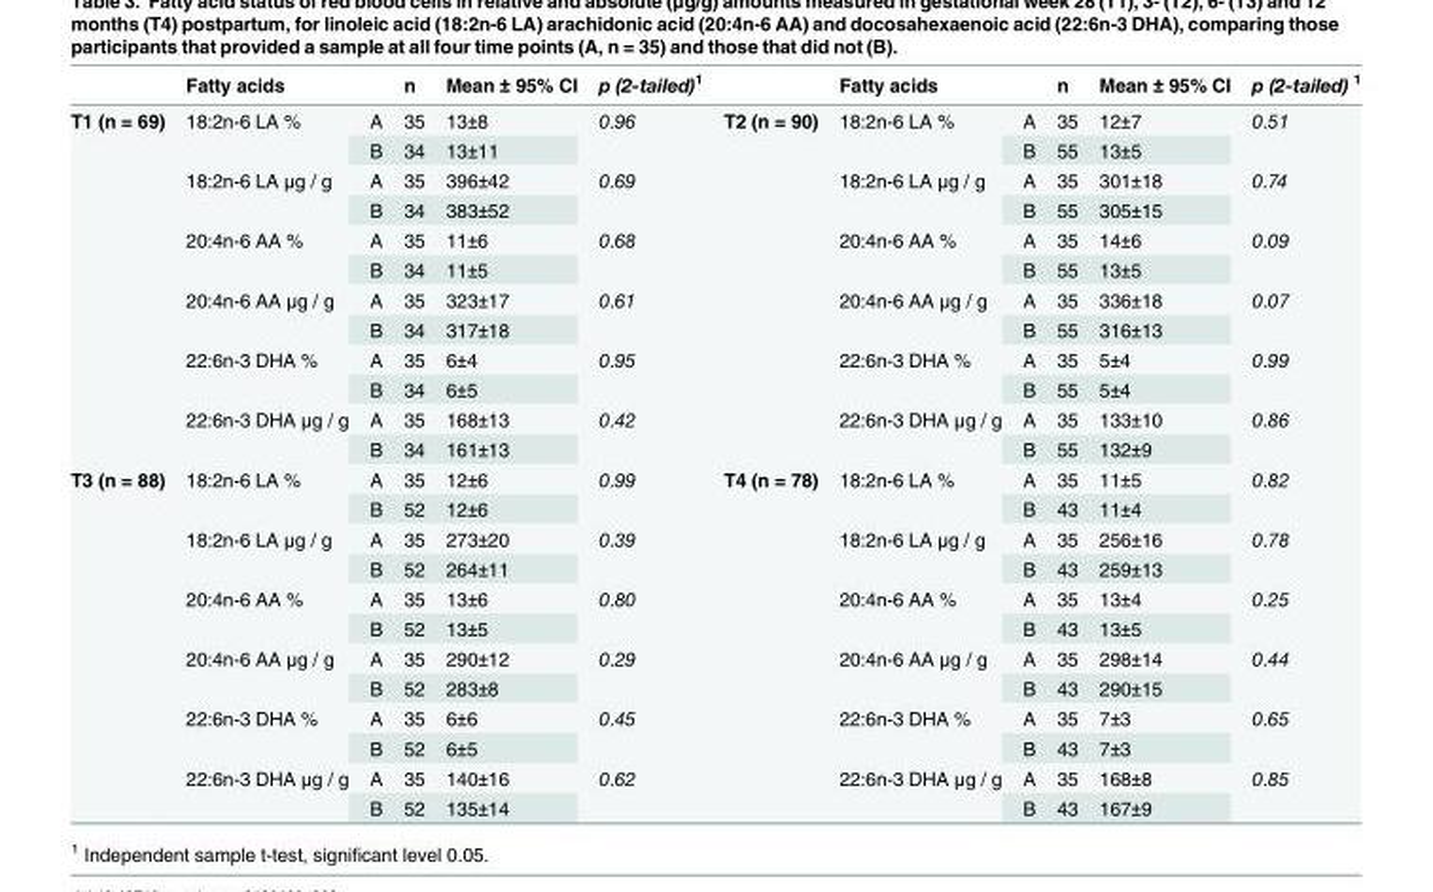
<table><thead><tr><td></td><td>Fatty acids</td><td></td><td>n</td><td>Mean ± 95% CI</td><td>p (2-tailed)<sup>1</sup></td><td></td><td>Fatty acids</td><td></td><td>n</td><td>Mean ± 95% CI</td><td>p (2-tailed) <sup>1</sup></td></tr></thead><tbody><tr><td rowspan="12">T1 (n = 69)</td><td rowspan="2">18:2n-6 LA %</td><td>A</td><td>35</td><td>13±8</td><td rowspan="2">0.96</td><td rowspan="12">T2 (n = 90)</td><td rowspan="2">18:2n-6 LA %</td><td>A</td><td>35</td><td>12±7</td><td rowspan="2">0.51</td></tr><tr><td>B</td><td>34</td><td>13±11</td><td>B</td><td>55</td><td>13±5</td></tr><tr><td rowspan="2">18:2n-6 LA μg / g</td><td>A</td><td>35</td><td>396±42</td><td rowspan="2">0.69</td><td rowspan="2">18:2n-6 LA μg / g</td><td>A</td><td>35</td><td>301±18</td><td rowspan="2">0.74</td></tr><tr><td>B</td><td>34</td><td>383±52</td><td>B</td><td>55</td><td>305±15</td></tr><tr><td rowspan="2">20:4n-6 AA %</td><td>A</td><td>35</td><td>11±6</td><td rowspan="2">0.68</td><td rowspan="2">20:4n-6 AA %</td><td>A</td><td>35</td><td>14±6</td><td rowspan="2">0.09</td></tr><tr><td>B</td><td>34</td><td>11±5</td><td>B</td><td>55</td><td>13±5</td></tr><tr><td rowspan="2">20:4n-6 AA μg / g</td><td>A</td><td>35</td><td>323±17</td><td rowspan="2">0.61</td><td rowspan="2">20:4n-6 AA μg / g</td><td>A</td><td>35</td><td>336±18</td><td rowspan="2">0.07</td></tr><tr><td>B</td><td>34</td><td>317±18</td><td>B</td><td>55</td><td>316±13</td></tr><tr><td rowspan="2">22:6n-3 DHA %</td><td>A</td><td>35</td><td>6±4</td><td rowspan="2">0.95</td><td rowspan="2">22:6n-3 DHA %</td><td>A</td><td>35</td><td>5±4</td><td rowspan="2">0.99</td></tr><tr><td>B</td><td>34</td><td>6±5</td><td>B</td><td>55</td><td>5±4</td></tr><tr><td rowspan="2">22:6n-3 DHA μg / g</td><td>A</td><td>35</td><td>168±13</td><td rowspan="2">0.42</td><td rowspan="2">22:6n-3 DHA μg / g</td><td>A</td><td>35</td><td>133±10</td><td rowspan="2">0.86</td></tr><tr><td>B</td><td>34</td><td>161±13</td><td>B</td><td>55</td><td>132±9</td></tr><tr><td rowspan="12">T3 (n = 88)</td><td rowspan="2">18:2n-6 LA %</td><td>A</td><td>35</td><td>12±6</td><td rowspan="2">0.99</td><td rowspan="12">T4 (n = 78)</td><td rowspan="2">18:2n-6 LA %</td><td>A</td><td>35</td><td>11±5</td><td rowspan="2">0.82</td></tr><tr><td>B</td><td>52</td><td>12±6</td><td>B</td><td>43</td><td>11±4</td></tr><tr><td rowspan="2">18:2n-6 LA μg / g</td><td>A</td><td>35</td><td>273±20</td><td rowspan="2">0.39</td><td rowspan="2">18:2n-6 LA μg / g</td><td>A</td><td>35</td><td>256±16</td><td rowspan="2">0.78</td></tr><tr><td>B</td><td>52</td><td>264±11</td><td>B</td><td>43</td><td>259±13</td></tr><tr><td rowspan="2">20:4n-6 AA %</td><td>A</td><td>35</td><td>13±6</td><td rowspan="2">0.80</td><td rowspan="2">20:4n-6 AA %</td><td>A</td><td>35</td><td>13±4</td><td rowspan="2">0.25</td></tr><tr><td>B</td><td>52</td><td>13±5</td><td>B</td><td>43</td><td>13±5</td></tr><tr><td rowspan="2">20:4n-6 AA μg / g</td><td>A</td><td>35</td><td>290±12</td><td rowspan="2">0.29</td><td rowspan="2">20:4n-6 AA μg / g</td><td>A</td><td>35</td><td>298±14</td><td rowspan="2">0.44</td></tr><tr><td>B</td><td>52</td><td>283±8</td><td>B</td><td>43</td><td>290±15</td></tr><tr><td rowspan="2">22:6n-3 DHA %</td><td>A</td><td>35</td><td>6±6</td><td rowspan="2">0.45</td><td rowspan="2">22:6n-3 DHA %</td><td>A</td><td>35</td><td>7±3</td><td rowspan="2">0.65</td></tr><tr><td>B</td><td>52</td><td>6±5</td><td>B</td><td>43</td><td>7±3</td></tr><tr><td rowspan="2">22:6n-3 DHA μg / g</td><td>A</td><td>35</td><td>140±16</td><td rowspan="2">0.62</td><td rowspan="2">22:6n-3 DHA μg / g</td><td>A</td><td>35</td><td>168±8</td><td rowspan="2">0.85</td></tr><tr><td>B</td><td>52</td><td>135±14</td><td>B</td><td>43</td><td>167±9</td></tr></tbody></table>